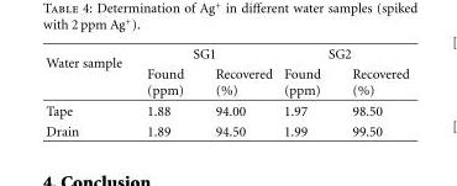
<table><thead><tr><td rowspan="2">Water sample</td><td colspan="2">SG1</td><td colspan="2">SG2</td></tr><tr><td>Found (ppm)</td><td>Recovered (%)</td><td>Found (ppm)</td><td>Recovered (%)</td></tr></thead><tbody><tr><td>Tape</td><td>1.88</td><td>94.00</td><td>1.97</td><td>98.50</td></tr><tr><td>Drain</td><td>1.89</td><td>94.50</td><td>1.99</td><td>99.50</td></tr></tbody></table>